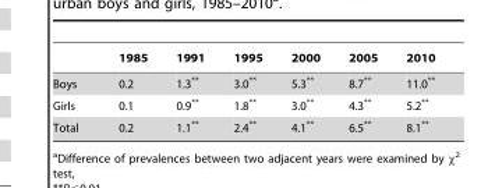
<table><thead><tr><td></td><td>1985</td><td>1991</td><td>1995</td><td>2000</td><td>2005</td><td>2010</td></tr></thead><tbody><tr><td>Boys</td><td>0.2</td><td>1.3**</td><td>3.0**</td><td>5.3**</td><td>8.7**</td><td>11.0**</td></tr><tr><td>Girls</td><td>0.1</td><td>0.9**</td><td>1.8**</td><td>3.0**</td><td>4.3**</td><td>5.2**</td></tr><tr><td>Total</td><td>0.2</td><td>1.1**</td><td>2.4**</td><td>4.1**</td><td>6.5**</td><td>8.1**</td></tr></tbody></table>